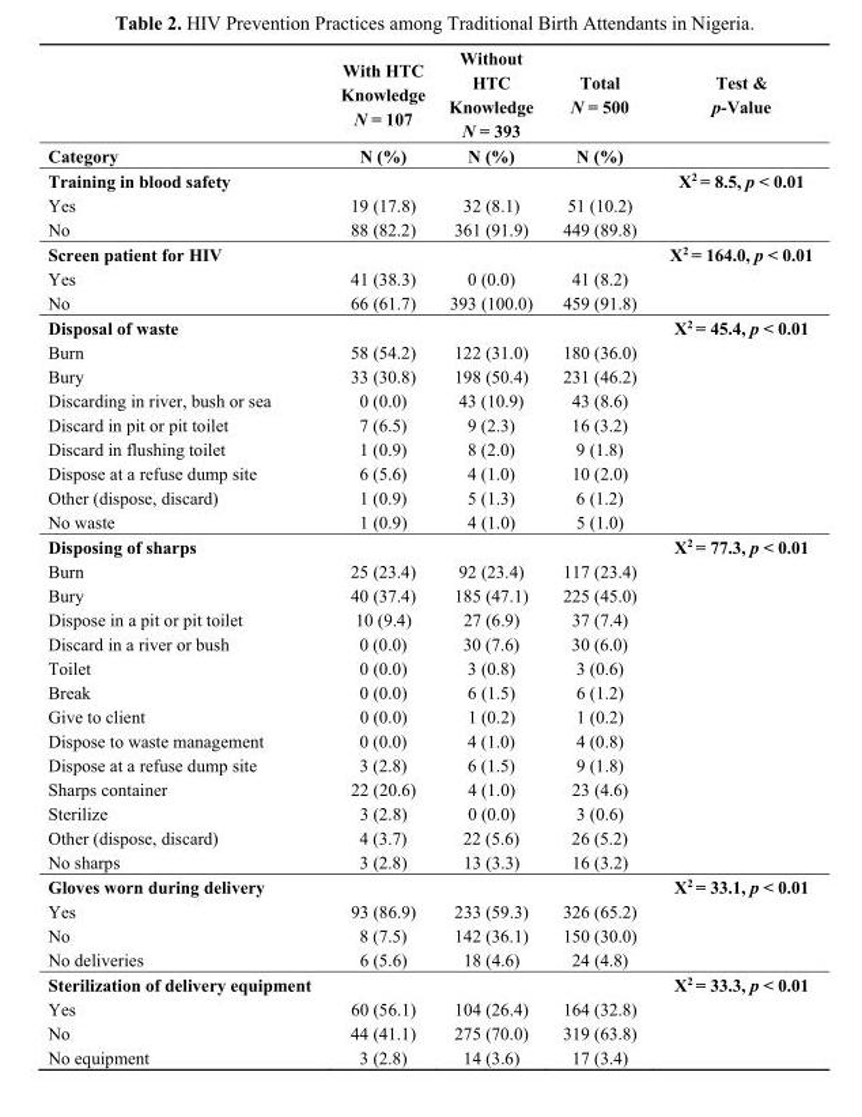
<table><thead><tr><td rowspan="2">Category</td><td rowspan="2">With HTC Knowledge N = 107 N (%)</td><td rowspan="2">Without HTC Knowledge N = 393 N (%)</td><td rowspan="2">Total N = 500 N (%)</td><td rowspan="2">Test &amp; p-Value</td></tr><tr></tr></thead><tbody><tr><td>Training in blood safety</td><td></td><td></td><td></td><td>X<sup>2</sup> = 8.5, p &lt; 0.01</td></tr><tr><td>Yes</td><td>19 (17.8)</td><td>32 (8.1)</td><td>51 (10.2)</td><td></td></tr><tr><td>No</td><td>88 (82.2)</td><td>361 (91.9)</td><td>449 (89.8)</td><td></td></tr><tr><td>Screen patient for HIV</td><td></td><td></td><td></td><td>X<sup>2</sup> = 164.0, p &lt; 0.01</td></tr><tr><td>Yes</td><td>41 (38.3)</td><td>0 (0.0)</td><td>41 (8.2)</td><td></td></tr><tr><td>No</td><td>66 (61.7)</td><td>393 (100.0)</td><td>459 (91.8)</td><td></td></tr><tr><td>Disposal of waste</td><td></td><td></td><td></td><td>X<sup>2</sup> = 45.4, p &lt; 0.01</td></tr><tr><td>Burn</td><td>58 (54.2)</td><td>122 (31.0)</td><td>180 (36.0)</td><td></td></tr><tr><td>Bury</td><td>33 (30.8)</td><td>198 (50.4)</td><td>231 (46.2)</td><td></td></tr><tr><td>Discarding in river, bush or sea</td><td>0 (0.0)</td><td>43 (10.9)</td><td>43 (8.6)</td><td></td></tr><tr><td>Discard in pit or pit toilet</td><td>7 (6.5)</td><td>9 (2.3)</td><td>16 (3.2)</td><td></td></tr><tr><td>Discard in flushing toilet</td><td>1 (0.9)</td><td>8 (2.0)</td><td>9 (1.8)</td><td></td></tr><tr><td>Dispose at a refuse dump site</td><td>6 (5.6)</td><td>4 (1.0)</td><td>10 (2.0)</td><td></td></tr><tr><td>Other (dispose, discard)</td><td>1 (0.9)</td><td>5 (1.3)</td><td>6 (1.2)</td><td></td></tr><tr><td>No waste</td><td>1 (0.9)</td><td>4 (1.0)</td><td>5 (1.0)</td><td></td></tr><tr><td>Disposing of sharps</td><td></td><td></td><td></td><td>X<sup>2</sup> = 77.3, p &lt; 0.01</td></tr><tr><td>Burn</td><td>25 (23.4)</td><td>92 (23.4)</td><td>117 (23.4)</td><td></td></tr><tr><td>Bury</td><td>40 (37.4)</td><td>185 (47.1)</td><td>225 (45.0)</td><td></td></tr><tr><td>Dispose in a pit or pit toilet</td><td>10 (9.4)</td><td>27 (6.9)</td><td>37 (7.4)</td><td></td></tr><tr><td>Discard in a river or bush</td><td>0 (0.0)</td><td>30 (7.6)</td><td>30 (6.0)</td><td></td></tr><tr><td>Toilet</td><td>0 (0.0)</td><td>3 (0.8)</td><td>3 (0.6)</td><td></td></tr><tr><td>Break</td><td>0 (0.0)</td><td>6 (1.5)</td><td>6 (1.2)</td><td></td></tr><tr><td>Give to client</td><td>0 (0.0)</td><td>1 (0.2)</td><td>1 (0.2)</td><td></td></tr><tr><td>Dispose to waste management</td><td>0 (0.0)</td><td>4 (1.0)</td><td>4 (0.8)</td><td></td></tr><tr><td>Dispose at a refuse dump site</td><td>3 (2.8)</td><td>6 (1.5)</td><td>9 (1.8)</td><td></td></tr><tr><td>Sharps container</td><td>22 (20.6)</td><td>4 (1.0)</td><td>23 (4.6)</td><td></td></tr><tr><td>Sterilize</td><td>3 (2.8)</td><td>0 (0.0)</td><td>3 (0.6)</td><td></td></tr><tr><td>Other (dispose, discard)</td><td>4 (3.7)</td><td>22 (5.6)</td><td>26 (5.2)</td><td></td></tr><tr><td>No sharps</td><td>3 (2.8)</td><td>13 (3.3)</td><td>16 (3.2)</td><td></td></tr><tr><td>Gloves worn during delivery</td><td></td><td></td><td></td><td>X<sup>2</sup> = 33.1, p &lt; 0.01</td></tr><tr><td>Yes</td><td>93 (86.9)</td><td>233 (59.3)</td><td>326 (65.2)</td><td></td></tr><tr><td>No</td><td>8 (7.5)</td><td>142 (36.1)</td><td>150 (30.0)</td><td></td></tr><tr><td>No deliveries</td><td>6 (5.6)</td><td>18 (4.6)</td><td>24 (4.8)</td><td></td></tr><tr><td>Sterilization of delivery equipment</td><td></td><td></td><td></td><td>X<sup>2</sup> = 33.3, p &lt; 0.01</td></tr><tr><td>Yes</td><td>60 (56.1)</td><td>104 (26.4)</td><td>164 (32.8)</td><td></td></tr><tr><td>No</td><td>44 (41.1)</td><td>275 (70.0)</td><td>319 (63.8)</td><td></td></tr><tr><td>No equipment</td><td>3 (2.8)</td><td>14 (3.6)</td><td>17 (3.4)</td><td></td></tr></tbody></table>